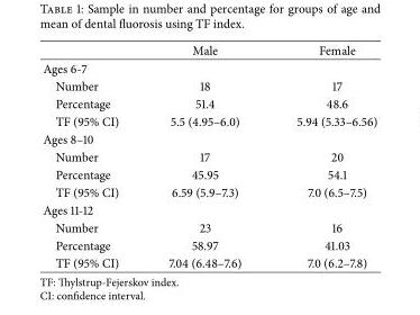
<table><thead><tr><td></td><td>Male</td><td>Female</td></tr></thead><tbody><tr><td colspan="3">Ages 6-7</td></tr><tr><td>Number</td><td>18</td><td>17</td></tr><tr><td>Percentage</td><td>51.4</td><td>48.6</td></tr><tr><td>TF (95% CI)</td><td>5.5 (4.95–6.0)</td><td>5.94 (5.33–6.56)</td></tr><tr><td colspan="3">Ages 8–10</td></tr><tr><td>Number</td><td>17</td><td>20</td></tr><tr><td>Percentage</td><td>45.95</td><td>54.1</td></tr><tr><td>TF (95% CI)</td><td>6.59 (5.9–7.3)</td><td>7.0 (6.5–7.5)</td></tr><tr><td colspan="3">Ages 11-12</td></tr><tr><td>Number</td><td>23</td><td>16</td></tr><tr><td>Percentage</td><td>58.97</td><td>41.03</td></tr><tr><td>TF (95% CI)</td><td>7.04 (6.48–7.6)</td><td>7.0 (6.2–7.8)</td></tr></tbody></table>